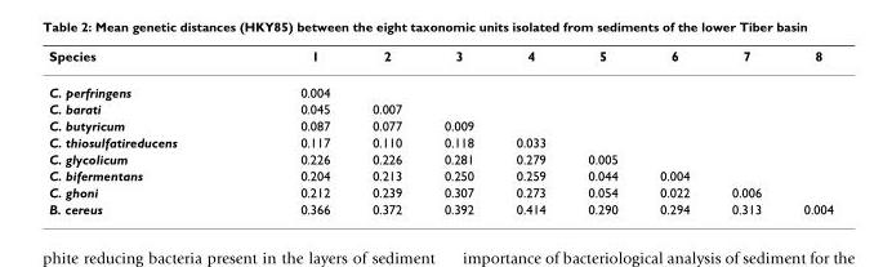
<table><thead><tr><td>Species</td><td>1</td><td>2</td><td>3</td><td>4</td><td>5</td><td>6</td><td>7</td><td>8</td></tr></thead><tbody><tr><td>C. perfringens</td><td>0.004</td><td></td><td></td><td></td><td></td><td></td><td></td><td></td></tr><tr><td>C. barati</td><td>0.045</td><td>0.007</td><td></td><td></td><td></td><td></td><td></td><td></td></tr><tr><td>C. butyricum</td><td>0.087</td><td>0.077</td><td>0.009</td><td></td><td></td><td></td><td></td><td></td></tr><tr><td>C. thiosulfatireducens</td><td>0.117</td><td>0.110</td><td>0.118</td><td>0.033</td><td></td><td></td><td></td><td></td></tr><tr><td>C. glycolicum</td><td>0.226</td><td>0.226</td><td>0.281</td><td>0.279</td><td>0.005</td><td></td><td></td><td></td></tr><tr><td>C. bifermentans</td><td>0.204</td><td>0.213</td><td>0.250</td><td>0.259</td><td>0.044</td><td>0.004</td><td></td><td></td></tr><tr><td>C. ghoni</td><td>0.212</td><td>0.239</td><td>0.307</td><td>0.273</td><td>0.054</td><td>0.022</td><td>0.006</td><td></td></tr><tr><td>B. cereus</td><td>0.366</td><td>0.372</td><td>0.392</td><td>0.414</td><td>0.290</td><td>0.294</td><td>0.313</td><td>0.004</td></tr></tbody></table>